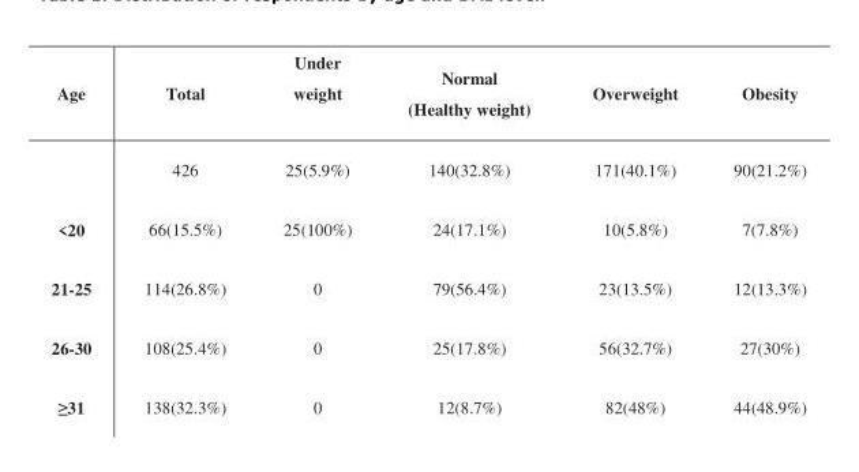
<table><thead><tr><td>Age</td><td>Total</td><td>Under weight</td><td>Normal (Healthy weight)</td><td>Overweight</td><td>Obesity</td></tr></thead><tbody><tr><td></td><td>426</td><td>25(5.9%)</td><td>140(32.8%)</td><td>171(40.1%)</td><td>90(21.2%)</td></tr><tr><td>&lt;20</td><td>66(15.5%)</td><td>25(100%)</td><td>24(17.1%)</td><td>10(5.8%)</td><td>7(7.8%)</td></tr><tr><td>21-25</td><td>114(26.8%)</td><td>0</td><td>79(56.4%)</td><td>23(13.5%)</td><td>12(13.3%)</td></tr><tr><td>26-30</td><td>108(25.4%)</td><td>0</td><td>25(17.8%)</td><td>56(32.7%)</td><td>27(30%)</td></tr><tr><td>≥31</td><td>138(32.3%)</td><td>0</td><td>12(8.7%)</td><td>82(48%)</td><td>44(48.9%)</td></tr></tbody></table>